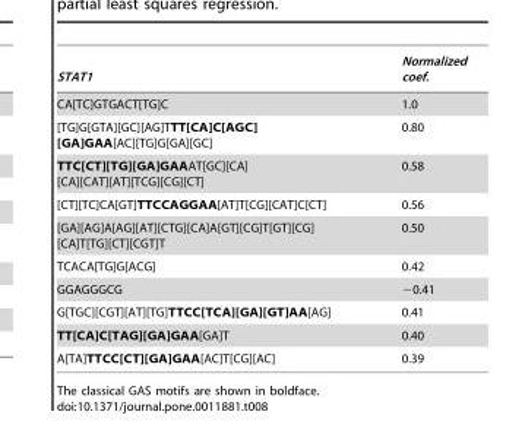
<table><thead><tr><td>STAT1</td><td>Normalized coef.</td></tr></thead><tbody><tr><td>CA[TC]GTGACT[TG]C</td><td>1.0</td></tr><tr><td>[TG]G[GTA][GC][AG]TTT[CA]C[AGC] [GA]GAA[AC][TG]G[GA][GC]</td><td>0.80</td></tr><tr><td>TTC[CT][TG][GA]GAAAT[GC][CA] [CA][CAT][AT][TCG][CG][CT]</td><td>0.58</td></tr><tr><td>[CT][TC]CA[GT]TTCCAGGAA[AT]T[CG][CAT]C[CT]</td><td>0.56</td></tr><tr><td>[GA][AG]A[AG][AT][CTG][CA]A[GT][CG]T[GT][CG] [CA]T[TG][CT][CGT]T</td><td>0.50</td></tr><tr><td>TCACA[TG]G[ACG]</td><td>0.42</td></tr><tr><td>GGAGGGCG</td><td>−0.41</td></tr><tr><td>G[TGC][CGT][AT][TG]TTCC[TCA][GA][GT]AA[AG]</td><td>0.41</td></tr><tr><td>TT[CA]C[TAG][GA]GAA[GA]T</td><td>0.40</td></tr><tr><td>A[TA]TTCC[CT][GA]GAA[AC]T[CG][AC]</td><td>0.39</td></tr></tbody></table>